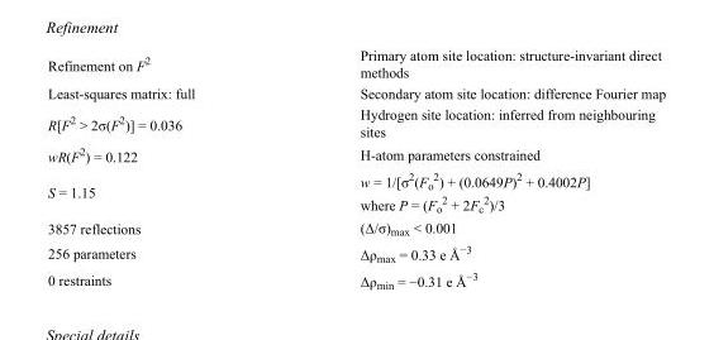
<table><tbody><tr><td>Refinement on F<sup>2</sup></td><td>Primary atom site location: structure-invariant direct methods</td></tr><tr><td>Least-squares matrix: full</td><td>Secondary atom site location: difference Fourier map</td></tr><tr><td>R[F<sup>2</sup> &gt; 2σ(F<sup>2</sup>)] = 0.036</td><td>Hydrogen site location: inferred from neighbouring sites</td></tr><tr><td>wR(F<sup>2</sup>) = 0.122</td><td>H-atom parameters constrained</td></tr><tr><td>S = 1.15</td><td>w = 1/[σ<sup>2</sup>(F<sub>o</sub> <sup>2</sup>) + (0.0649P)<sup>2</sup> + 0.4002P] where P = (F<sub>o</sub> <sup>2</sup> + 2F<sub>c</sub> <sup>2</sup>)/3</td></tr><tr><td>3857 reflections</td><td>(Δ/σ)<sub>max</sub> &lt; 0.001</td></tr><tr><td>256 parameters</td><td>Δρ<sub>max</sub> = 0.33 e Å<sup>−3</sup></td></tr><tr><td>0 restraints</td><td>Δρ<sub>min</sub> = −0.31 e Å<sup>−3</sup></td></tr></tbody></table>